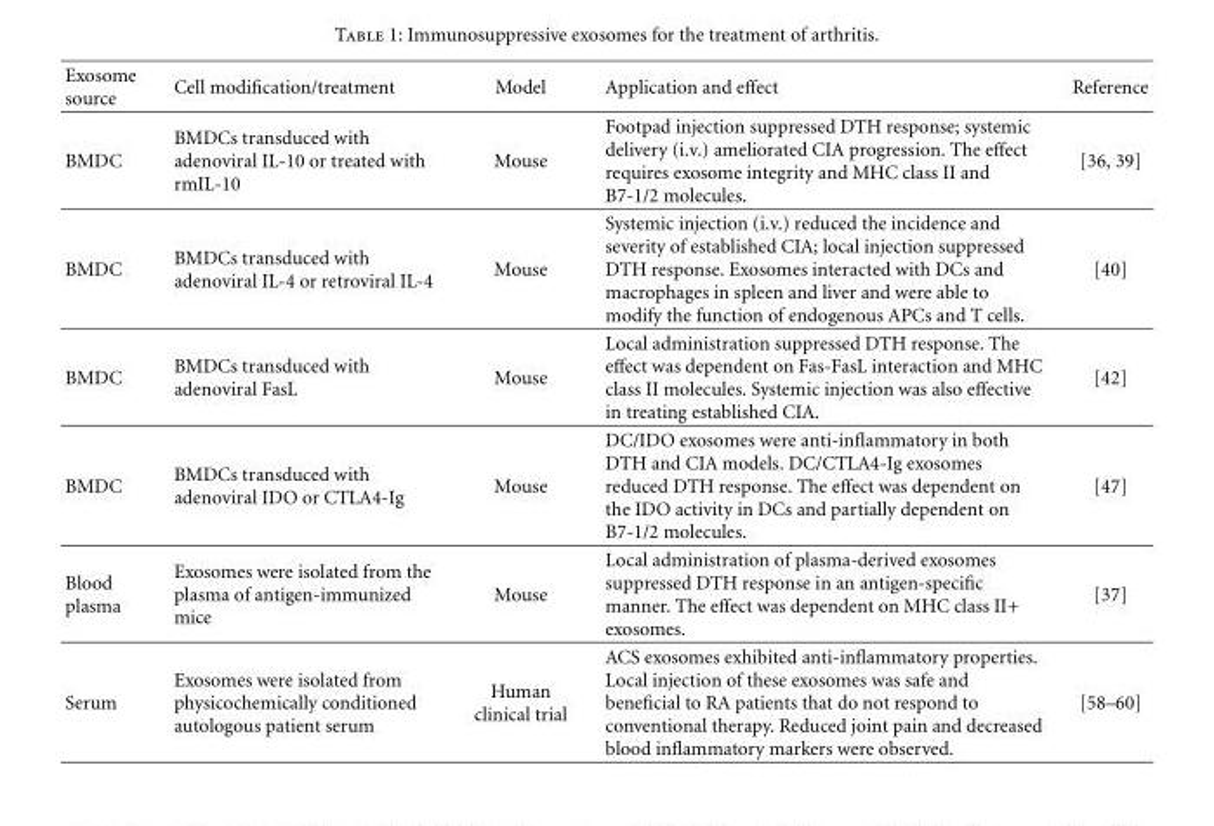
<table><thead><tr><td>Exosome source</td><td>Cell modification/treatment</td><td>Model</td><td>Application and effect</td><td>Reference</td></tr></thead><tbody><tr><td>BMDC</td><td>BMDCs transduced with adenoviral IL-10 or treated with rmIL-10</td><td>Mouse</td><td>Footpad injection suppressed DTH response; systemic delivery (i.v.) ameliorated CIA progression. The effect requires exosome integrity and MHC class II and B7-1/2 molecules.</td><td>[36, 39]</td></tr><tr><td>BMDC</td><td>BMDCs transduced with adenoviral IL-4 or retroviral IL-4</td><td>Mouse</td><td>Systemic injection (i.v.) reduced the incidence and severity of established CIA; local injection suppressed DTH response. Exosomes interacted with DCs and macrophages in spleen and liver and were able to modify the function of endogenous APCs and T cells.</td><td>[40]</td></tr><tr><td>BMDC</td><td>BMDCs transduced with adenoviral FasL</td><td>Mouse</td><td>Local administration suppressed DTH response. The effect was dependent on Fas-FasL interaction and MHC class II molecules. Systemic injection was also effective in treating established CIA.</td><td>[42]</td></tr><tr><td>BMDC</td><td>BMDCs transduced with adenoviral IDO or CTLA4-Ig</td><td>Mouse</td><td>DC/IDO exosomes were anti-inflammatory in both DTH and CIA models. DC/CTLA4-Ig exosomes reduced DTH response. The effect was dependent on the IDO activity in DCs and partially dependent on B7-1/2 molecules.</td><td>[47]</td></tr><tr><td>Blood plasma</td><td>Exosomes were isolated from the plasma of antigen-immunized mice</td><td>Mouse</td><td>Local administration of plasma-derived exosomes suppressed DTH response in an antigen-specific manner. The effect was dependent on MHC class II+ exosomes.</td><td>[37]</td></tr><tr><td>Serum</td><td>Exosomes were isolated from physicochemically conditioned autologous patient serum</td><td>Human clinical trial</td><td>ACS exosomes exhibited anti-inflammatory properties. Local injection of these exosomes was safe and beneficial to RA patients that do not respond to conventional therapy. Reduced joint pain and decreased blood inflammatory markers were observed.</td><td>[58–60]</td></tr></tbody></table>